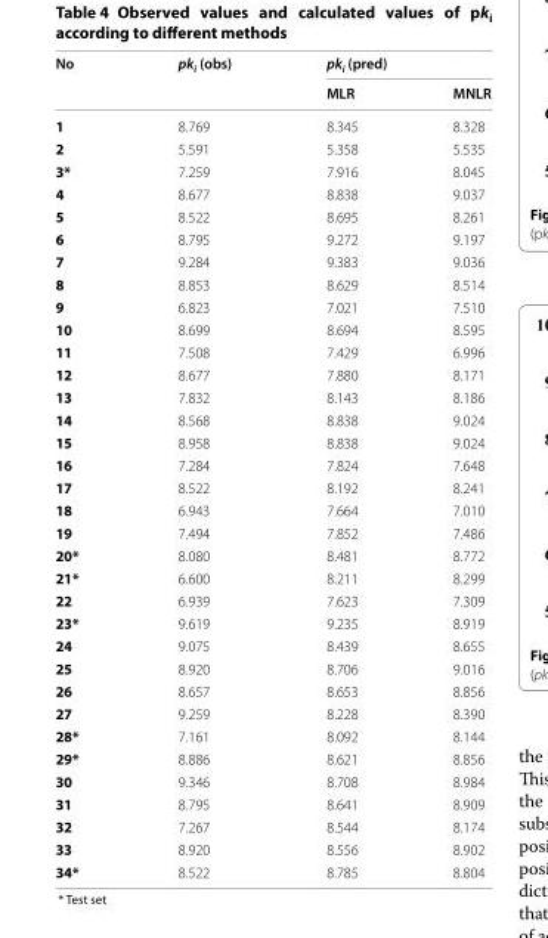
<table><thead><tr><td rowspan="2">No</td><td rowspan="2">pk<sub>i</sub> (obs)</td><td colspan="2">pk<sub>i</sub> (pred)</td></tr><tr><td>MLR</td><td>MNLR</td></tr></thead><tbody><tr><td>1</td><td>8.769</td><td>8.345</td><td>8.328</td></tr><tr><td>2</td><td>5.591</td><td>5.358</td><td>5.535</td></tr><tr><td>3*</td><td>7.259</td><td>7.916</td><td>8.045</td></tr><tr><td>4</td><td>8.677</td><td>8.838</td><td>9.037</td></tr><tr><td>5</td><td>8.522</td><td>8.695</td><td>8.261</td></tr><tr><td>6</td><td>8.795</td><td>9.272</td><td>9.197</td></tr><tr><td>7</td><td>9.284</td><td>9.383</td><td>9.036</td></tr><tr><td>8</td><td>8.853</td><td>8.629</td><td>8.514</td></tr><tr><td>9</td><td>6.823</td><td>7.021</td><td>7.510</td></tr><tr><td>10</td><td>8.699</td><td>8.694</td><td>8.595</td></tr><tr><td>11</td><td>7.508</td><td>7.429</td><td>6.996</td></tr><tr><td>12</td><td>8.677</td><td>7.880</td><td>8.171</td></tr><tr><td>13</td><td>7.832</td><td>8.143</td><td>8.186</td></tr><tr><td>14</td><td>8.568</td><td>8.838</td><td>9.024</td></tr><tr><td>15</td><td>8.958</td><td>8.838</td><td>9.024</td></tr><tr><td>16</td><td>7.284</td><td>7.824</td><td>7.648</td></tr><tr><td>17</td><td>8.522</td><td>8.192</td><td>8.241</td></tr><tr><td>18</td><td>6.943</td><td>7.664</td><td>7.010</td></tr><tr><td>19</td><td>7.494</td><td>7.852</td><td>7.486</td></tr><tr><td>20*</td><td>8.080</td><td>8.481</td><td>8.772</td></tr><tr><td>21*</td><td>6.600</td><td>8.211</td><td>8.299</td></tr><tr><td>22</td><td>6.939</td><td>7.623</td><td>7.309</td></tr><tr><td>23*</td><td>9.619</td><td>9.235</td><td>8.919</td></tr><tr><td>24</td><td>9.075</td><td>8.439</td><td>8.655</td></tr><tr><td>25</td><td>8.920</td><td>8.706</td><td>9.016</td></tr><tr><td>26</td><td>8.657</td><td>8.653</td><td>8.856</td></tr><tr><td>27</td><td>9.259</td><td>8.228</td><td>8.390</td></tr><tr><td>28*</td><td>7.161</td><td>8.092</td><td>8.144</td></tr><tr><td>29*</td><td>8.886</td><td>8.621</td><td>8.856</td></tr><tr><td>30</td><td>9.346</td><td>8.708</td><td>8.984</td></tr><tr><td>31</td><td>8.795</td><td>8.641</td><td>8.909</td></tr><tr><td>32</td><td>7.267</td><td>8.544</td><td>8.174</td></tr><tr><td>33</td><td>8.920</td><td>8.556</td><td>8.902</td></tr><tr><td>34*</td><td>8.522</td><td>8.785</td><td>8.804</td></tr></tbody></table>